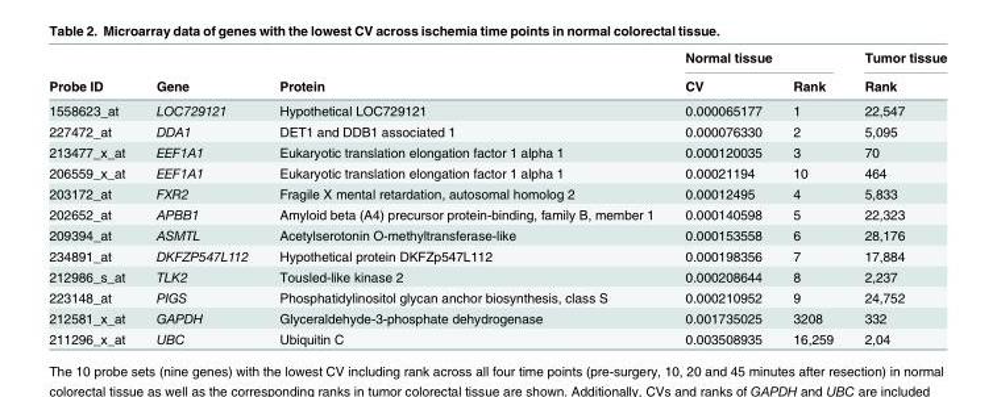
<table><thead><tr><td rowspan="2">Probe ID</td><td rowspan="2">Gene</td><td rowspan="2">Protein</td><td colspan="2">Normal tissue</td><td rowspan="2">Tumor tissue Rank</td></tr><tr><td>CV</td><td>Rank</td></tr></thead><tbody><tr><td>1558623_at</td><td>LOC729121</td><td>Hypothetical LOC729121</td><td>0.000065177</td><td>1</td><td>22,547</td></tr><tr><td>227472_at</td><td>DDA1</td><td>DET1 and DDB1 associated 1</td><td>0.000076330</td><td>2</td><td>5,095</td></tr><tr><td>213477_x_at</td><td>EEF1A1</td><td>Eukaryotic translation elongation factor 1 alpha 1</td><td>0.000120035</td><td>3</td><td>70</td></tr><tr><td>206559_x_at</td><td>EEF1A1</td><td>Eukaryotic translation elongation factor 1 alpha 1</td><td>0.00021194</td><td>10</td><td>464</td></tr><tr><td>203172_at</td><td>FXR2</td><td>Fragile X mental retardation, autosomal homolog 2</td><td>0.00012495</td><td>4</td><td>5,833</td></tr><tr><td>202652_at</td><td>APBB1</td><td>Amyloid beta (A4) precursor protein-binding, family B, member 1</td><td>0.000140598</td><td>5</td><td>22,323</td></tr><tr><td>209394_at</td><td>ASMTL</td><td>Acetylserotonin O-methyltransferase-like</td><td>0.000153558</td><td>6</td><td>28,176</td></tr><tr><td>234891_at</td><td>DKFZP547L112</td><td>Hypothetical protein DKFZp547L112</td><td>0.000198356</td><td>7</td><td>17,884</td></tr><tr><td>212986_s_at</td><td>TLK2</td><td>Tousled-like kinase 2</td><td>0.000208644</td><td>8</td><td>2,237</td></tr><tr><td>223148_at</td><td>PIGS</td><td>Phosphatidylinositol glycan anchor biosynthesis, class S</td><td>0.000210952</td><td>9</td><td>24,752</td></tr><tr><td>212581_x_at</td><td>GAPDH</td><td>Glyceraldehyde-3-phosphate dehydrogenase</td><td>0.001735025</td><td>3208</td><td>332</td></tr><tr><td>211296_x_at</td><td>UBC</td><td>Ubiquitin C</td><td>0.003508935</td><td>16,259</td><td>2,04</td></tr></tbody></table>